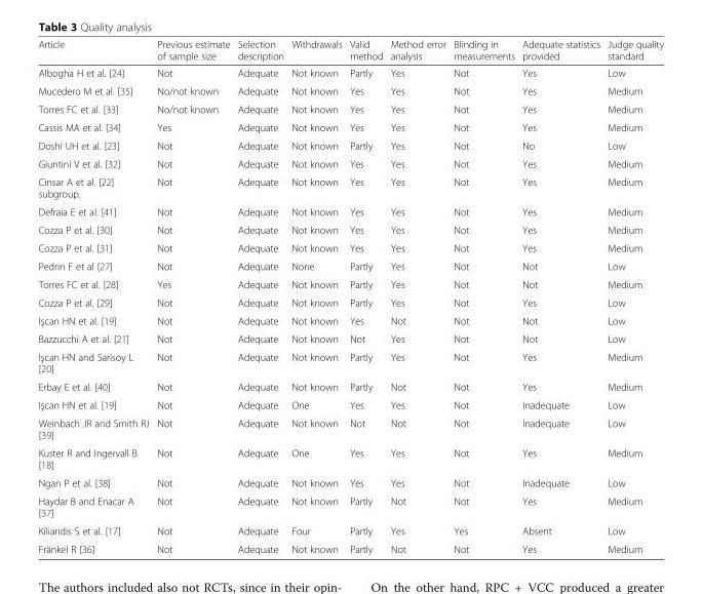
<table><thead><tr><td>Article</td><td>Previous estimate of sample size</td><td>Selection description</td><td>Withdrawals</td><td>Valid method</td><td>Method error analysis</td><td>Blinding in measurements</td><td>Adequate statistics provided</td><td>Judge quality standard</td></tr></thead><tbody><tr><td>Albogha H et al. [24]</td><td>Not</td><td>Adequate</td><td>Not known</td><td>Partly</td><td>Yes</td><td>Not</td><td>Yes</td><td>Low</td></tr><tr><td>Mucedero M et al. [35]</td><td>No/not known</td><td>Adequate</td><td>Not known</td><td>Yes</td><td>Yes</td><td>Not</td><td>Yes</td><td>Medium</td></tr><tr><td>Torres FC et al. [33]</td><td>No/not known</td><td>Adequate</td><td>Not known</td><td>Yes</td><td>Yes</td><td>Not</td><td>Yes</td><td>Medium</td></tr><tr><td>Cassis MA et al. [34]</td><td>Yes</td><td>Adequate</td><td>Not known</td><td>Yes</td><td>Yes</td><td>Not</td><td>Yes</td><td>Medium</td></tr><tr><td>Doshi UH et al. [23]</td><td>Not</td><td>Adequate</td><td>Not known</td><td>Partly</td><td>Yes</td><td>Not</td><td>No</td><td>Low</td></tr><tr><td>Giuntini V et al. [32]</td><td>Not</td><td>Adequate</td><td>Not known</td><td>Yes</td><td>Yes</td><td>Not</td><td>Yes</td><td>Medium</td></tr><tr><td>Cinsar A et al. [22] subgroup.</td><td>Not</td><td>Adequate</td><td>Not known</td><td>Yes</td><td>Yes</td><td>Not</td><td>Yes</td><td>Medium</td></tr><tr><td>Defraia E et al. [41]</td><td>Not</td><td>Adequate</td><td>Not known</td><td>Yes</td><td>Yes</td><td>Not</td><td>Yes</td><td>Medium</td></tr><tr><td>Cozza P et al. [30]</td><td>Not</td><td>Adequate</td><td>Not known</td><td>Yes</td><td>Yes</td><td>Not</td><td>Yes</td><td>Medium</td></tr><tr><td>Cozza P et al. [31]</td><td>Not</td><td>Adequate</td><td>Not known</td><td>Yes</td><td>Yes</td><td>Not</td><td>Yes</td><td>Medium</td></tr><tr><td>Pedrin F et al [27]</td><td>Not</td><td>Adequate</td><td>None</td><td>Partly</td><td>Yes</td><td>Not</td><td>Not</td><td>Low</td></tr><tr><td>Torres FC et al. [28]</td><td>Yes</td><td>Adequate</td><td>Not known</td><td>Partly</td><td>Yes</td><td>Not</td><td>Not</td><td>Medium</td></tr><tr><td>Cozza P et al. [29]</td><td>Not</td><td>Adequate</td><td>Not known</td><td>Partly</td><td>Yes</td><td>Not</td><td>Yes</td><td>Low</td></tr><tr><td>Işcan HN et al. [19]</td><td>Not</td><td>Adequate</td><td>Not known</td><td>Yes</td><td>Not</td><td>Not</td><td>Not</td><td>Low</td></tr><tr><td>Bazzucchi A et al. [21]</td><td>Not</td><td>Adequate</td><td>Not known</td><td>Not</td><td>Yes</td><td>Not</td><td>Not</td><td>Low</td></tr><tr><td>Işcan HN and Sarisoy L [20]</td><td>Not</td><td>Adequate</td><td>Not known</td><td>Partly</td><td>Yes</td><td>Not</td><td>Yes</td><td>Medium</td></tr><tr><td>Erbay E et al. [40]</td><td>Not</td><td>Adequate</td><td>Not known</td><td>Partly</td><td>Not</td><td>Not</td><td>Yes</td><td>Medium</td></tr><tr><td>Işcan HN et al. [19]</td><td>Not</td><td>Adequate</td><td>One</td><td>Yes</td><td>Yes</td><td>Not</td><td>Inadequate</td><td>Low</td></tr><tr><td>Weinbach JR and Smith RJ [39]</td><td>Not</td><td>Adequate</td><td>Not known</td><td>Not</td><td>Not</td><td>Not</td><td>Inadequate</td><td>Low</td></tr><tr><td>Kuster R and Ingervall B [18]</td><td>Not</td><td>Adequate</td><td>One</td><td>Yes</td><td>Yes</td><td>Not</td><td>Yes</td><td>Medium</td></tr><tr><td>Ngan P et al. [38]</td><td>Not</td><td>Adequate</td><td>Not known</td><td>Yes</td><td>Yes</td><td>Not</td><td>Inadequate</td><td>Low</td></tr><tr><td>Haydar B and Enacar A [37]</td><td>Not</td><td>Adequate</td><td>Not known</td><td>Partly</td><td>Not</td><td>Not</td><td>Yes</td><td>Medium</td></tr><tr><td>Kiliaridis S et al. [17]</td><td>Not</td><td>Adequate</td><td>Four</td><td>Partly</td><td>Yes</td><td>Yes</td><td>Absent</td><td>Low</td></tr><tr><td>Fränkel R [36]</td><td>Not</td><td>Adequate</td><td>Not known</td><td>Partly</td><td>Not</td><td>Not</td><td>Yes</td><td>Medium</td></tr></tbody></table>